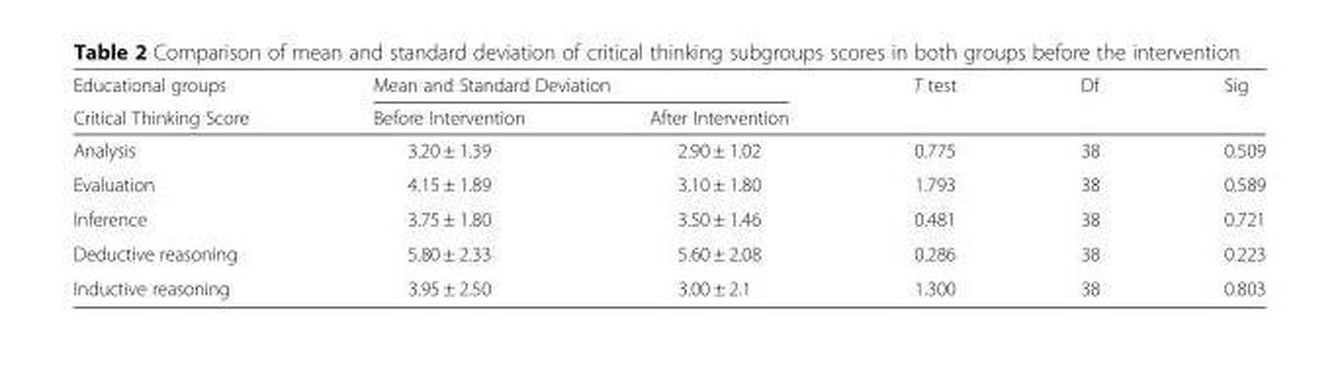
<table><thead><tr><td rowspan="2">Educational groups Critical Thinking Score</td><td colspan="2">Mean and Standard Deviation</td><td rowspan="2">T test</td><td rowspan="2">Df</td><td rowspan="2">Sig</td></tr><tr><td>Before Intervention</td><td>After Intervention</td></tr></thead><tbody><tr><td>Analysis</td><td>3.20 ± 1.39</td><td>2.90 ± 1.02</td><td>0.775</td><td>38</td><td>0.509</td></tr><tr><td>Evaluation</td><td>4.15 ± 1.89</td><td>3.10 ± 1.80</td><td>1.793</td><td>38</td><td>0.589</td></tr><tr><td>Inference</td><td>3.75 ± 1.80</td><td>3.50 ± 1.46</td><td>0.481</td><td>38</td><td>0.721</td></tr><tr><td>Deductive reasoning</td><td>5.80 ± 2.33</td><td>5.60 ± 2.08</td><td>0.286</td><td>38</td><td>0.223</td></tr><tr><td>Inductive reasoning</td><td>3.95 ± 2.50</td><td>3.00 ± 2.1</td><td>1.300</td><td>38</td><td>0.803</td></tr></tbody></table>